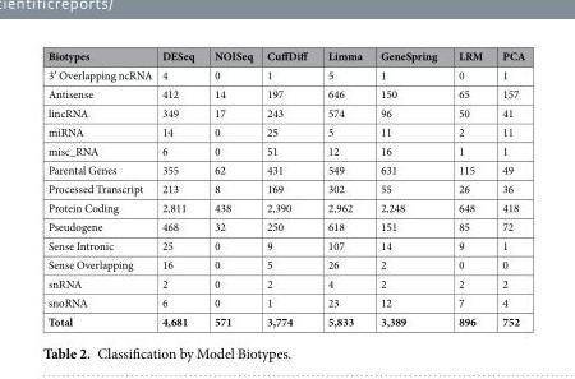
<table><thead><tr><td>Biotypes</td><td>DESeq</td><td>NOISeq</td><td>CuffDiff</td><td>Limma</td><td>GeneSpring</td><td>LRM</td><td>PCA</td></tr></thead><tbody><tr><td>3′ Overlapping ncRNA</td><td>4</td><td>0</td><td>1</td><td>5</td><td>1</td><td>0</td><td>1</td></tr><tr><td>Antisense</td><td>412</td><td>14</td><td>197</td><td>646</td><td>150</td><td>65</td><td>157</td></tr><tr><td>lincRNA</td><td>349</td><td>17</td><td>243</td><td>574</td><td>96</td><td>50</td><td>41</td></tr><tr><td>miRNA</td><td>14</td><td>0</td><td>25</td><td>5</td><td>11</td><td>2</td><td>11</td></tr><tr><td>misc_RNA</td><td>6</td><td>0</td><td>51</td><td>12</td><td>16</td><td>1</td><td>1</td></tr><tr><td>Parental Genes</td><td>355</td><td>62</td><td>431</td><td>549</td><td>631</td><td>115</td><td>49</td></tr><tr><td>Processed Transcript</td><td>213</td><td>8</td><td>169</td><td>302</td><td>55</td><td>26</td><td>36</td></tr><tr><td>Protein Coding</td><td>2,811</td><td>438</td><td>2,390</td><td>2,962</td><td>2,248</td><td>648</td><td>418</td></tr><tr><td>Pseudogene</td><td>468</td><td>32</td><td>250</td><td>618</td><td>151</td><td>85</td><td>72</td></tr><tr><td>Sense Intronic</td><td>25</td><td>0</td><td>9</td><td>107</td><td>14</td><td>9</td><td>1</td></tr><tr><td>Sense Overlapping</td><td>16</td><td>0</td><td>5</td><td>26</td><td>2</td><td>0</td><td>0</td></tr><tr><td>snRNA</td><td>2</td><td>0</td><td>2</td><td>4</td><td>2</td><td>2</td><td>2</td></tr><tr><td>snoRNA</td><td>6</td><td>0</td><td>1</td><td>23</td><td>12</td><td>7</td><td>4</td></tr><tr><td>Total</td><td>4,681</td><td>571</td><td>3,774</td><td>5,833</td><td>3,389</td><td>896</td><td>752</td></tr></tbody></table>